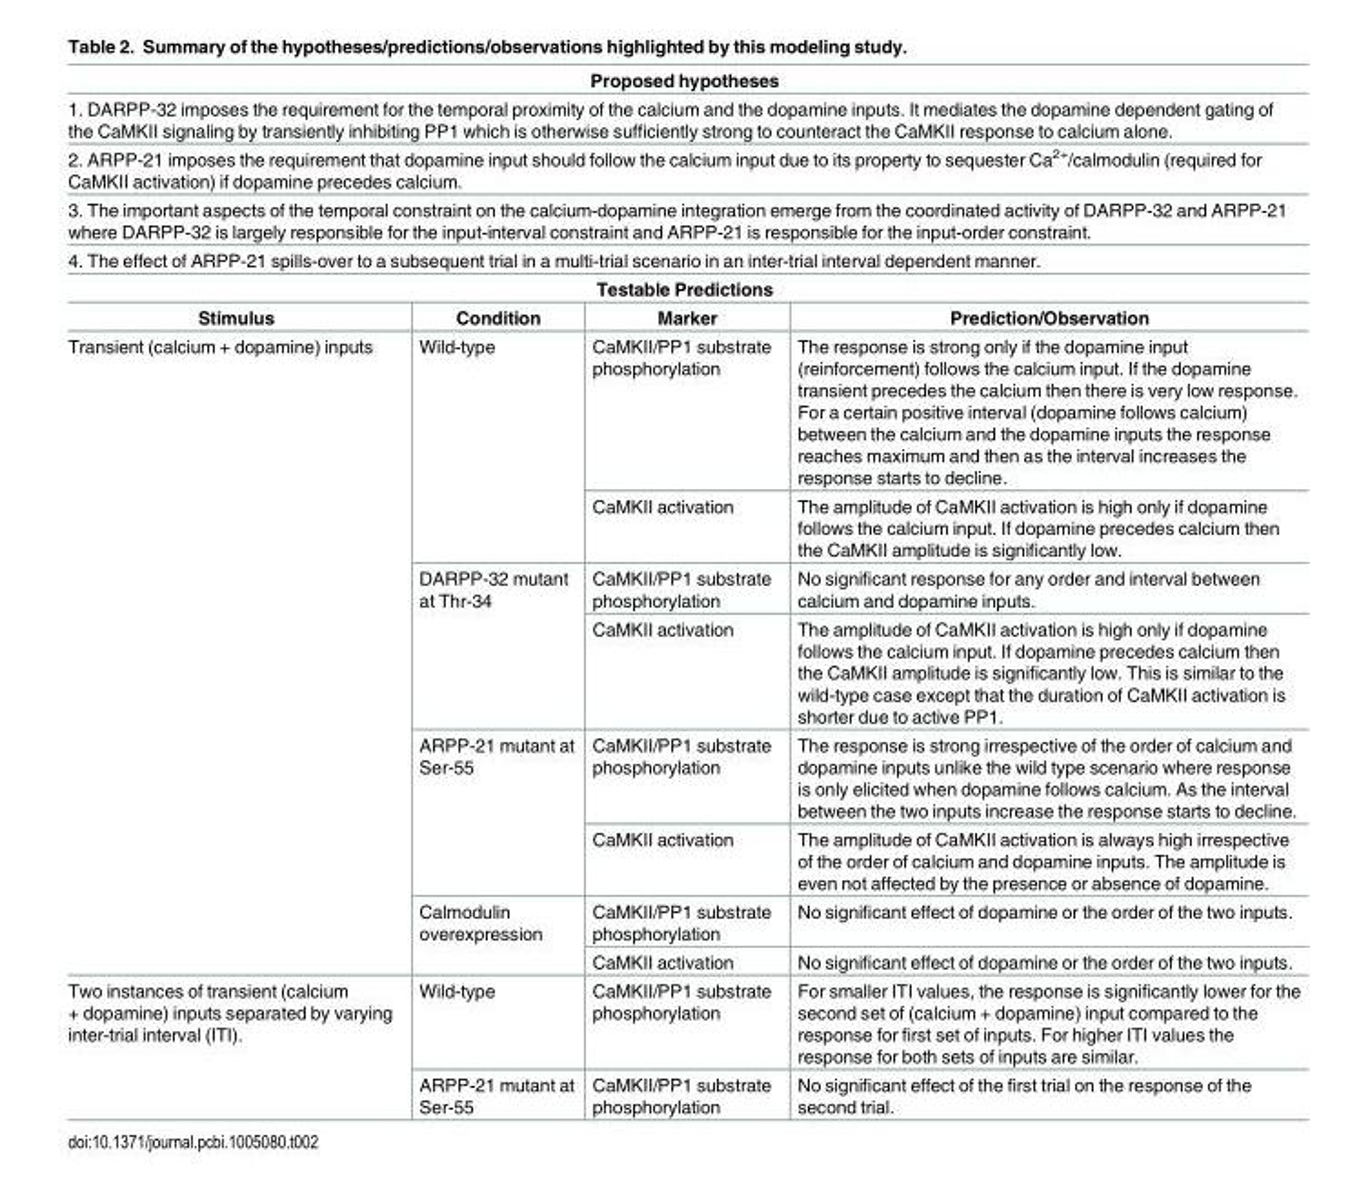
<table><tbody><tr><td colspan="4">Proposed hypotheses</td></tr><tr><td colspan="4">1. DARPP-32 imposes the requirement for the temporal proximity of the calcium and the dopamine inputs. It mediates the dopamine dependent gating of the CaMKII signaling by transiently inhibiting PP1 which is otherwise sufficiently strong to counteract the CaMKII response to calcium alone.</td></tr><tr><td colspan="4">2. ARPP-21 imposes the requirement that dopamine input should follow the calcium input due to its property to sequester Ca<sup>2+</sup>/calmodulin (required for CaMKII activation) if dopamine precedes calcium.</td></tr><tr><td colspan="4">3. The important aspects of the temporal constraint on the calcium-dopamine integration emerge from the coordinated activity of DARPP-32 and ARPP-21 where DARPP-32 is largely responsible for the input-interval constraint and ARPP-21 is responsible for the input-order constraint.</td></tr><tr><td colspan="4">4. The effect of ARPP-21 spills-over to a subsequent trial in a multi-trial scenario in an inter-trial interval dependent manner.</td></tr><tr><td colspan="4">Testable Predictions</td></tr><tr><td>Stimulus</td><td>Condition</td><td>Marker</td><td>Prediction/Observation</td></tr><tr><td rowspan="8">Transient (calcium + dopamine) inputs</td><td rowspan="2">Wild-type</td><td>CaMKII/PP1 substrate phosphorylation</td><td>The response is strong only if the dopamine input (reinforcement) follows the calcium input. If the dopamine transient precedes the calcium then there is very low response. For a certain positive interval (dopamine follows calcium) between the calcium and the dopamine inputs the response reaches maximum and then as the interval increases the response starts to decline.</td></tr><tr><td>CaMKII activation</td><td>The amplitude of CaMKII activation is high only if dopamine follows the calcium input. If dopamine precedes calcium then the CaMKII amplitude is significantly low.</td></tr><tr><td rowspan="2">DARPP-32 mutant at Thr-34</td><td>CaMKII/PP1 substrate phosphorylation</td><td>No significant response for any order and interval between calcium and dopamine inputs.</td></tr><tr><td>CaMKII activation</td><td>The amplitude of CaMKII activation is high only if dopamine follows the calcium input. If dopamine precedes calcium then the CaMKII amplitude is significantly low. This is similar to the wild-type case except that the duration of CaMKII activation is shorter due to active PP1.</td></tr><tr><td rowspan="2">ARPP-21 mutant at Ser-55</td><td>CaMKII/PP1 substrate phosphorylation</td><td>The response is strong irrespective of the order of calcium and dopamine inputs unlike the wild type scenario where response is only elicited when dopamine follows calcium. As the interval between the two inputs increase the response starts to decline.</td></tr><tr><td>CaMKII activation</td><td>The amplitude of CaMKII activation is always high irrespective of the order of calcium and dopamine inputs. The amplitude is even not affected by the presence or absence of dopamine.</td></tr><tr><td rowspan="2">Calmodulin overexpression</td><td>CaMKII/PP1 substrate phosphorylation</td><td>No significant effect of dopamine or the order of the two inputs.</td></tr><tr><td>CaMKII activation</td><td>No significant effect of dopamine or the order of the two inputs.</td></tr><tr><td rowspan="2">Two instances of transient (calcium + dopamine) inputs separated by varying inter-trial interval (ITI).</td><td>Wild-type</td><td>CaMKII/PP1 substrate phosphorylation</td><td>For smaller ITI values, the response is significantly lower for the second set of (calcium + dopamine) input compared to the response for first set of inputs. For higher ITI values the response for both sets of inputs are similar.</td></tr><tr><td>ARPP-21 mutant at Ser-55</td><td>CaMKII/PP1 substrate phosphorylation</td><td>No significant effect of the first trial on the response of the second trial.</td></tr></tbody></table>